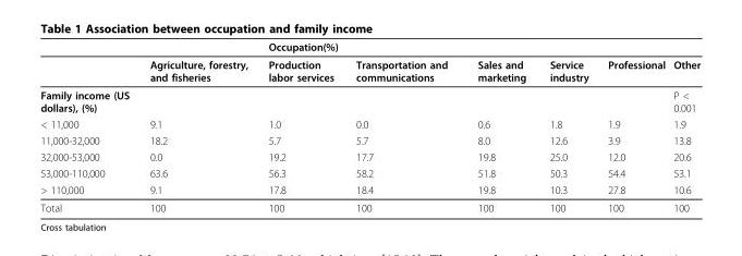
<table><thead><tr><td rowspan="2"></td><td rowspan="2">Agriculture, forestry, and fisheries</td><td colspan="2">Occupation(%)</td><td rowspan="2">Sales and marketing</td><td rowspan="2">Service industry</td><td rowspan="2">Professional</td><td rowspan="2">Other</td></tr><tr><td>Production labor services</td><td>Transportation and communications</td></tr></thead><tbody><tr><td>Family income (US dollars), (%)</td><td></td><td></td><td></td><td></td><td></td><td></td><td>P &lt; 0.001</td></tr><tr><td>&lt; 11,000</td><td>9.1</td><td>1.0</td><td>0.0</td><td>0.6</td><td>1.8</td><td>1.9</td><td>1.9</td></tr><tr><td>11,000-32,000</td><td>18.2</td><td>5.7</td><td>5.7</td><td>8.0</td><td>12.6</td><td>3.9</td><td>13.8</td></tr><tr><td>32,000-53,000</td><td>0.0</td><td>19.2</td><td>17.7</td><td>19.8</td><td>25.0</td><td>12.0</td><td>20.6</td></tr><tr><td>53,000-110,000</td><td>63.6</td><td>56.3</td><td>58.2</td><td>51.8</td><td>50.3</td><td>54.4</td><td>53.1</td></tr><tr><td>&gt; 110,000</td><td>9.1</td><td>17.8</td><td>18.4</td><td>19.8</td><td>10.3</td><td>27.8</td><td>10.6</td></tr><tr><td>Total</td><td>100</td><td>100</td><td>100</td><td>100</td><td>100</td><td>100</td><td>100</td></tr></tbody></table>